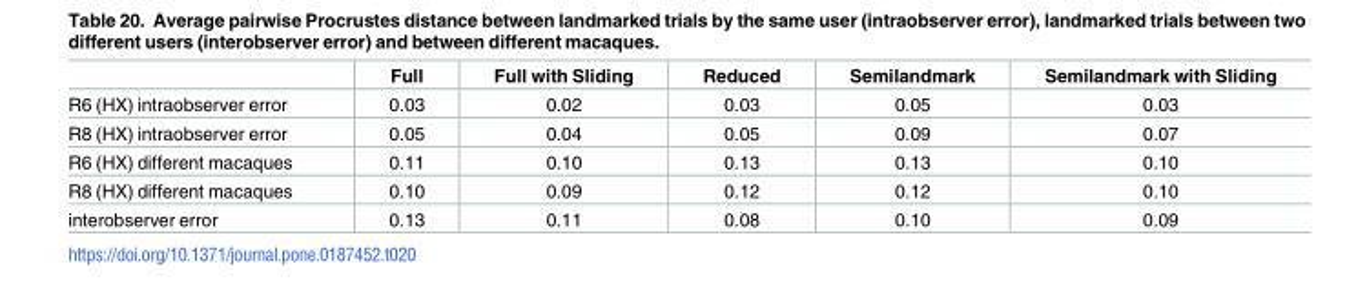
<table><thead><tr><td></td><td>Full</td><td>Full with Sliding</td><td>Reduced</td><td>Semilandmark</td><td>Semilandmark with Sliding</td></tr></thead><tbody><tr><td>R6 (HX) intraobserver error</td><td>0.03</td><td>0.02</td><td>0.03</td><td>0.05</td><td>0.03</td></tr><tr><td>R8 (HX) intraobserver error</td><td>0.05</td><td>0.04</td><td>0.05</td><td>0.09</td><td>0.07</td></tr><tr><td>R6 (HX) different macaques</td><td>0.11</td><td>0.10</td><td>0.13</td><td>0.13</td><td>0.10</td></tr><tr><td>R8 (HX) different macaques</td><td>0.10</td><td>0.09</td><td>0.12</td><td>0.12</td><td>0.10</td></tr><tr><td>interobserver error</td><td>0.13</td><td>0.11</td><td>0.08</td><td>0.10</td><td>0.09</td></tr></tbody></table>